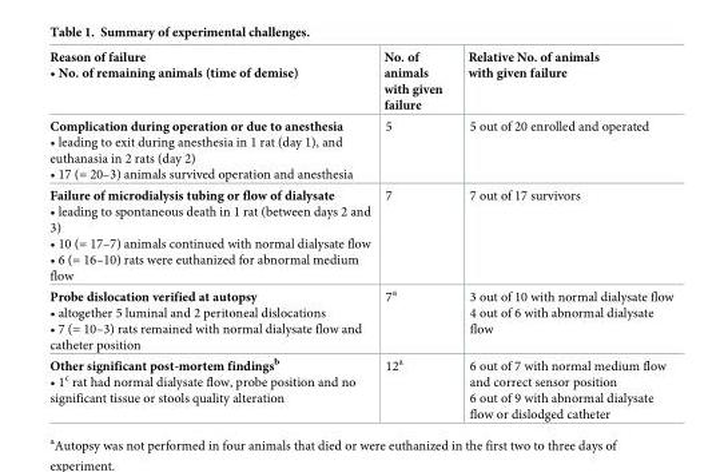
<table><thead><tr><td>Reason of failure • No. of remaining animals (time of demise)</td><td>No. of animals with given failure</td><td>Relative No. of animals with given failure</td></tr></thead><tbody><tr><td>Complication during operation or due to anesthesia • leading to exit during anesthesia in 1 rat (day 1), and euthanasia in 2 rats (day 2) • 17 (= 20–3) animals survived operation and anesthesia</td><td>5</td><td>5 out of 20 enrolled and operated</td></tr><tr><td>Failure of microdialysis tubing or flow of dialysate • leading to spontaneous death in 1 rat (between days 2 and 3) • 10 (= 17–7) animals continued with normal dialysate flow • 6 (= 16–10) rats were euthanized for abnormal medium flow</td><td>7</td><td>7 out of 17 survivors</td></tr><tr><td>Probe dislocation verified at autopsy • altogether 5 luminal and 2 peritoneal dislocations • 7 (= 10–3) rats remained with normal dialysate flow and catheter position</td><td>7<sup>a</sup></td><td>3 out of 10 with normal dialysate flow 4 out of 6 with abnormal dialysate flow</td></tr><tr><td>Other significant post-mortem findings<sup>b</sup> • 1<sup>c</sup> rat had normal dialysate flow, probe position and no significant tissue or stools quality alteration</td><td>12<sup>a</sup></td><td>6 out of 7 with normal medium flow and correct sensor position 6 out of 9 with abnormal dialysate flow or dislodged catheter</td></tr></tbody></table>